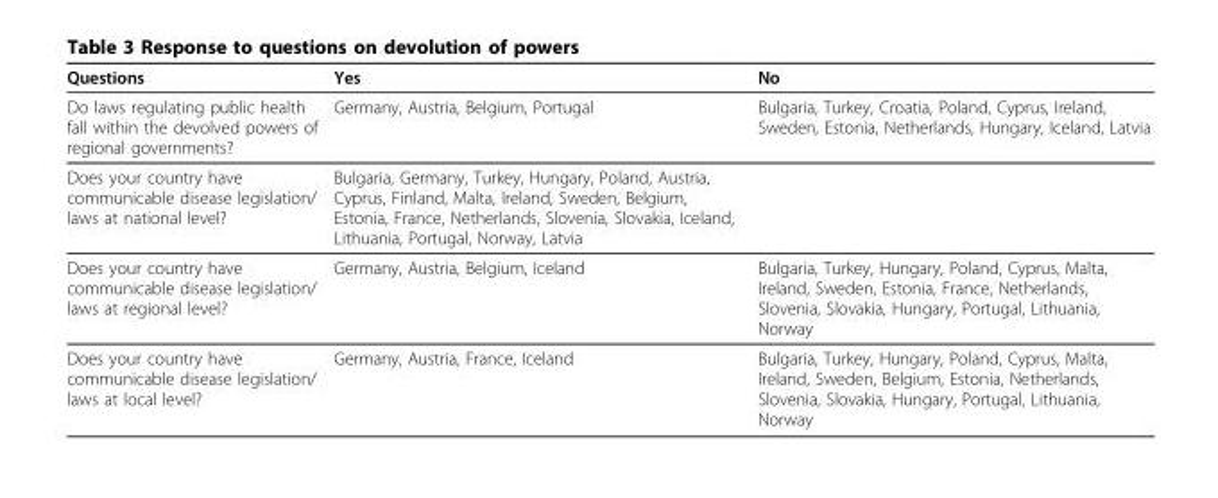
<table><thead><tr><td>Questions</td><td>Yes</td><td>No</td></tr></thead><tbody><tr><td>Do laws regulating public health fall within the devolved powers of regional governments?</td><td>Germany, Austria, Belgium, Portugal</td><td>Bulgaria, Turkey, Croatia, Poland, Cyprus, Ireland, Sweden, Estonia, Netherlands, Hungary, Iceland, Latvia</td></tr><tr><td>Does your country have communicable disease legislation/ laws at national level?</td><td>Bulgaria, Germany, Turkey, Hungary, Poland, Austria, Cyprus, Finland, Malta, Ireland, Sweden, Belgium, Estonia, France, Netherlands, Slovenia, Slovakia, Iceland, Lithuania, Portugal, Norway, Latvia</td><td></td></tr><tr><td>Does your country have communicable disease legislation/ laws at regional level?</td><td>Germany, Austria, Belgium, Iceland</td><td>Bulgaria, Turkey, Hungary, Poland, Cyprus, Malta, Ireland, Sweden, Estonia, France, Netherlands, Slovenia, Slovakia, Hungary, Portugal, Lithuania, Norway</td></tr><tr><td>Does your country have communicable disease legislation/ laws at local level?</td><td>Germany, Austria, France, Iceland</td><td>Bulgaria, Turkey, Hungary, Poland, Cyprus, Malta, Ireland, Sweden, Belgium, Estonia, Netherlands, Slovenia, Slovakia, Hungary, Portugal, Lithuania, Norway</td></tr></tbody></table>